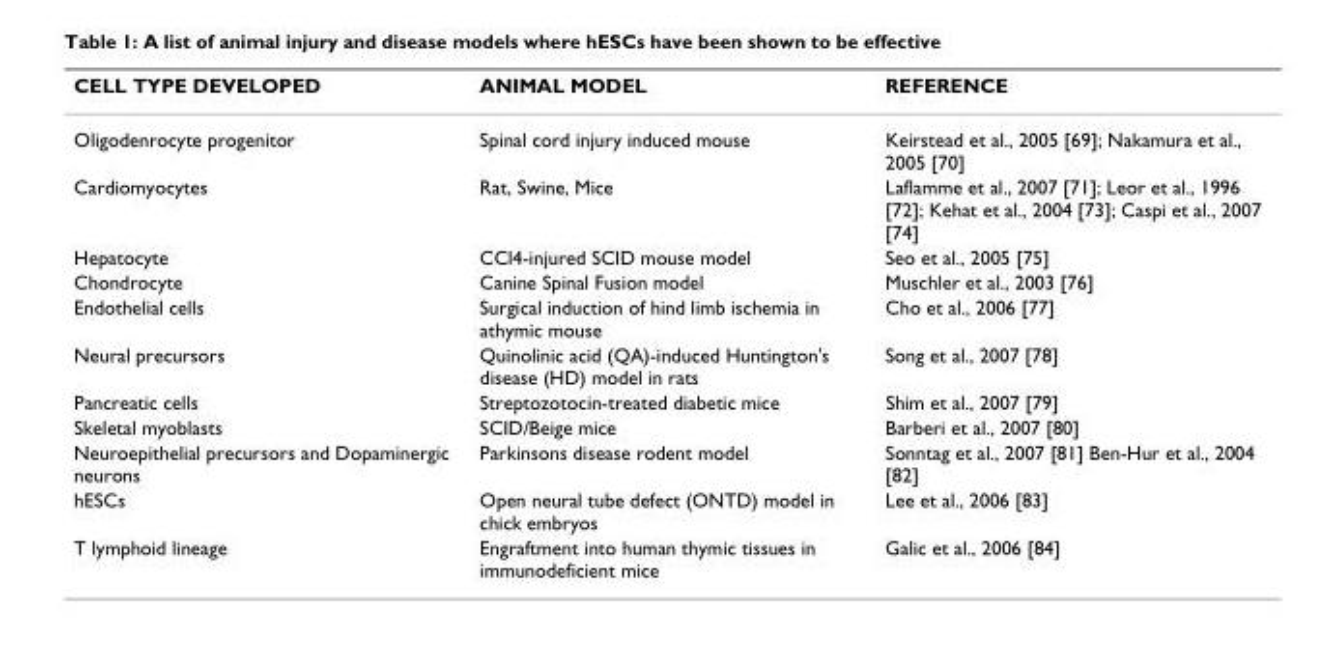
<table><thead><tr><td>CELL TYPE DEVELOPED</td><td>ANIMAL MODEL</td><td>REFERENCE</td></tr></thead><tbody><tr><td>Oligodenrocyte progenitor</td><td>Spinal cord injury induced mouse</td><td>Keirstead et al., 2005 [69]; Nakamura et al., 2005 [70]</td></tr><tr><td>Cardiomyocytes</td><td>Rat, Swine, Mice</td><td>Laflamme et al., 2007 [71]; Leor et al., 1996 [72]; Kehat et al., 2004 [73]; Caspi et al., 2007 [74]</td></tr><tr><td>Hepatocyte</td><td>CCl4-injured SCID mouse model</td><td>Seo et al., 2005 [75]</td></tr><tr><td>Chondrocyte</td><td>Canine Spinal Fusion model</td><td>Muschler et al., 2003 [76]</td></tr><tr><td>Endothelial cells</td><td>Surgical induction of hind limb ischemia in athymic mouse</td><td>Cho et al., 2006 [77]</td></tr><tr><td>Neural precursors</td><td>Quinolinic acid (QA)-induced Huntington&#x27;s disease (HD) model in rats</td><td>Song et al., 2007 [78]</td></tr><tr><td>Pancreatic cells</td><td>Streptozotocin-treated diabetic mice</td><td>Shim et al., 2007 [79]</td></tr><tr><td>Skeletal myoblasts</td><td>SCID/Beige mice</td><td>Barberi et al., 2007 [80]</td></tr><tr><td>Neuroepithelial precursors and Dopaminergic neurons</td><td>Parkinsons disease rodent model</td><td>Sonntag et al., 2007 [81] Ben-Hur et al., 2004 [82]</td></tr><tr><td>hESCs</td><td>Open neural tube defect (ONTD) model in chick embryos</td><td>Lee et al., 2006 [83]</td></tr><tr><td>T lymphoid lineage</td><td>Engraftment into human thymic tissues in immunodeficient mice</td><td>Galic et al., 2006 [84]</td></tr></tbody></table>